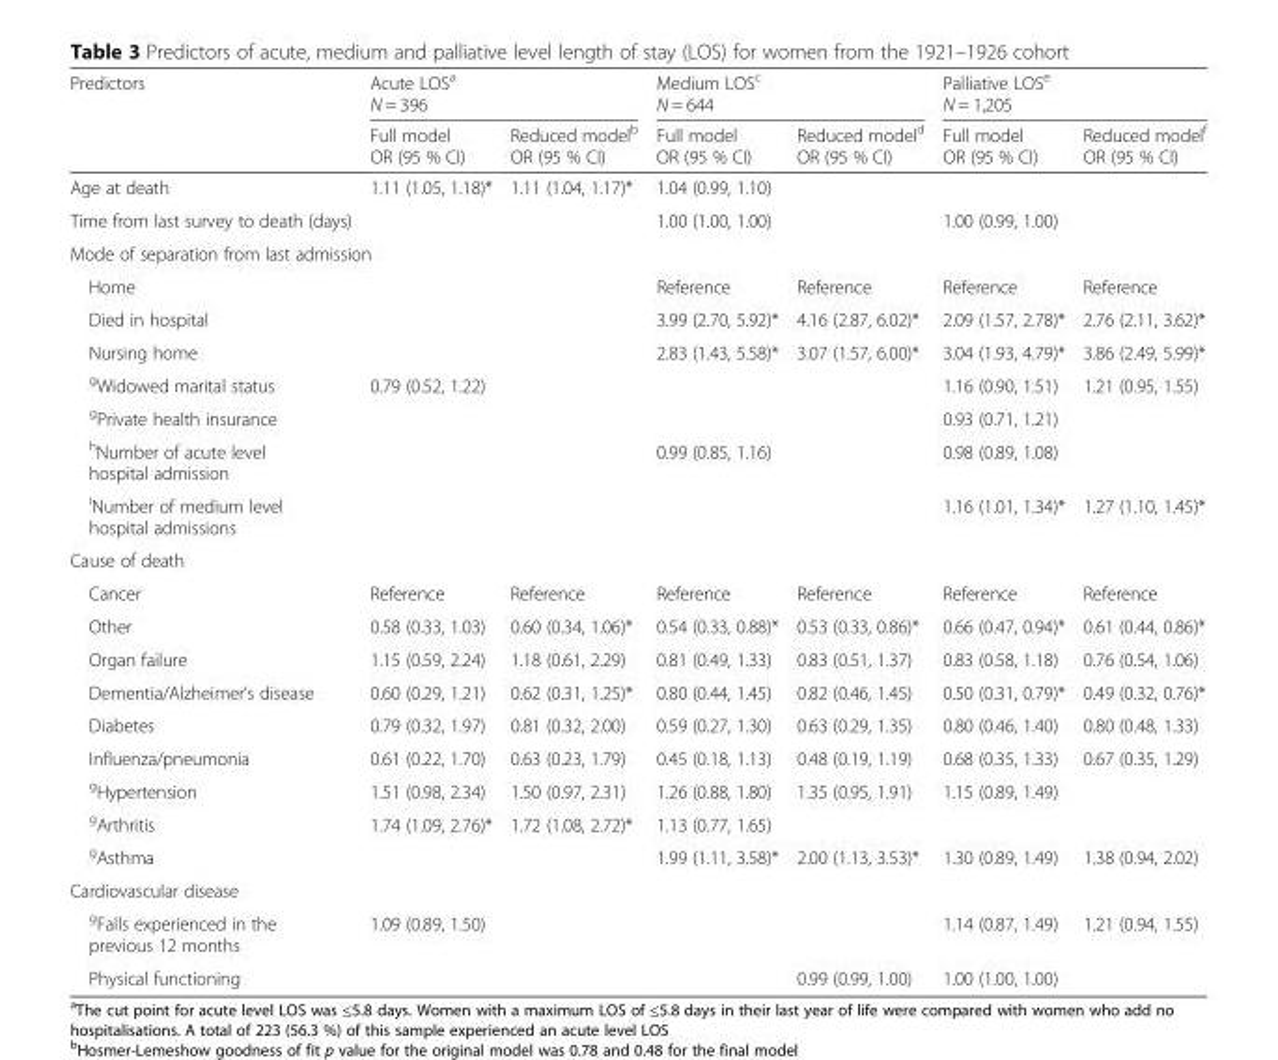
<table><thead><tr><td rowspan="2">Predictors</td><td colspan="2">Acute LOS<sup>a</sup> N = 396</td><td colspan="2">Medium LOS<sup>c</sup> N = 644</td><td colspan="2">Palliative LOS<sup>e</sup> N = 1,205</td></tr><tr><td>Full model OR (95 % CI)</td><td>Reduced model<sup>b</sup> OR (95 % CI)</td><td>Full model OR (95 % CI)</td><td>Reduced model<sup>d</sup> OR (95 % CI)</td><td>Full model OR (95 % CI)</td><td>Reduced model<sup>f</sup> OR (95 % CI)</td></tr></thead><tbody><tr><td>Age at death</td><td>1.11 (1.05, 1.18)*</td><td>1.11 (1.04, 1.17)*</td><td>1.04 (0.99, 1.10)</td><td></td><td></td><td rowspan="2"></td></tr><tr><td>Time from last survey to death (days)</td><td></td><td></td><td>1.00 (1.00, 1.00)</td><td></td><td>1.00 (0.99, 1.00)</td></tr><tr><td colspan="7">Mode of separation from last admission</td></tr><tr><td>Home</td><td></td><td></td><td>Reference</td><td>Reference</td><td>Reference</td><td>Reference</td></tr><tr><td>Died in hospital</td><td></td><td></td><td>3.99 (2.70, 5.92)*</td><td>4.16 (2.87, 6.02)*</td><td>2.09 (1.57, 2.78)*</td><td>2.76 (2.11, 3.62)*</td></tr><tr><td>Nursing home</td><td></td><td></td><td>2.83 (1.43, 5.58)*</td><td>3.07 (1.57, 6.00)*</td><td>3.04 (1.93, 4.79)*</td><td>3.86 (2.49, 5.99)*</td></tr><tr><td><sup>g</sup>Widowed marital status</td><td>0.79 (0.52, 1.22)</td><td></td><td></td><td></td><td>1.16 (0.90, 1.51)</td><td>1.21 (0.95, 1.55)</td></tr><tr><td><sup>g</sup>Private health insurance</td><td></td><td></td><td></td><td></td><td>0.93 (0.71, 1.21)</td><td rowspan="2"></td></tr><tr><td><sup>h</sup>Number of acute level hospital admission</td><td></td><td></td><td>0.99 (0.85, 1.16)</td><td></td><td>0.98 (0.89, 1.08)</td></tr><tr><td><sup>i</sup>Number of medium level hospital admissions</td><td></td><td></td><td></td><td></td><td>1.16 (1.01, 1.34)*</td><td>1.27 (1.10, 1.45)*</td></tr><tr><td colspan="7">Cause of death</td></tr><tr><td>Cancer</td><td>Reference</td><td>Reference</td><td>Reference</td><td>Reference</td><td>Reference</td><td>Reference</td></tr><tr><td>Other</td><td>0.58 (0.33, 1.03)</td><td>0.60 (0.34, 1.06)*</td><td>0.54 (0.33, 0.88)*</td><td>0.53 (0.33, 0.86)*</td><td>0.66 (0.47, 0.94)*</td><td>0.61 (0.44, 0.86)*</td></tr><tr><td>Organ failure</td><td>1.15 (0.59, 2.24)</td><td>1.18 (0.61, 2.29)</td><td>0.81 (0.49, 1.33)</td><td>0.83 (0.51, 1.37)</td><td>0.83 (0.58, 1.18)</td><td>0.76 (0.54, 1.06)</td></tr><tr><td>Dementia/Alzheimer’s disease</td><td>0.60 (0.29, 1.21)</td><td>0.62 (0.31, 1.25)*</td><td>0.80 (0.44, 1.45)</td><td>0.82 (0.46, 1.45)</td><td>0.50 (0.31, 0.79)*</td><td>0.49 (0.32, 0.76)*</td></tr><tr><td>Diabetes</td><td>0.79 (0.32, 1.97)</td><td>0.81 (0.32, 2.00)</td><td>0.59 (0.27, 1.30)</td><td>0.63 (0.29, 1.35)</td><td>0.80 (0.46, 1.40)</td><td>0.80 (0.48, 1.33)</td></tr><tr><td>Influenza/pneumonia</td><td>0.61 (0.22, 1.70)</td><td>0.63 (0.23, 1.79)</td><td>0.45 (0.18, 1.13)</td><td>0.48 (0.19, 1.19)</td><td>0.68 (0.35, 1.33)</td><td>0.67 (0.35, 1.29)</td></tr><tr><td><sup>g</sup>Hypertension</td><td>1.51 (0.98, 2.34)</td><td>1.50 (0.97, 2.31)</td><td>1.26 (0.88, 1.80)</td><td>1.35 (0.95, 1.91)</td><td>1.15 (0.89, 1.49)</td><td></td></tr><tr><td><sup>g</sup>Arthritis</td><td>1.74 (1.09, 2.76)*</td><td>1.72 (1.08, 2.72)*</td><td>1.13 (0.77, 1.65)</td><td></td><td></td><td></td></tr><tr><td><sup>g</sup>Asthma</td><td></td><td></td><td>1.99 (1.11, 3.58)*</td><td>2.00 (1.13, 3.53)*</td><td>1.30 (0.89, 1.49)</td><td>1.38 (0.94, 2.02)</td></tr><tr><td colspan="7">Cardiovascular disease</td></tr><tr><td><sup>g</sup>Falls experienced in the previous 12 months</td><td>1.09 (0.89, 1.50)</td><td></td><td></td><td></td><td>1.14 (0.87, 1.49)</td><td>1.21 (0.94, 1.55)</td></tr><tr><td>Physical functioning</td><td></td><td></td><td></td><td>0.99 (0.99, 1.00)</td><td>1.00 (1.00, 1.00)</td><td></td></tr></tbody></table>